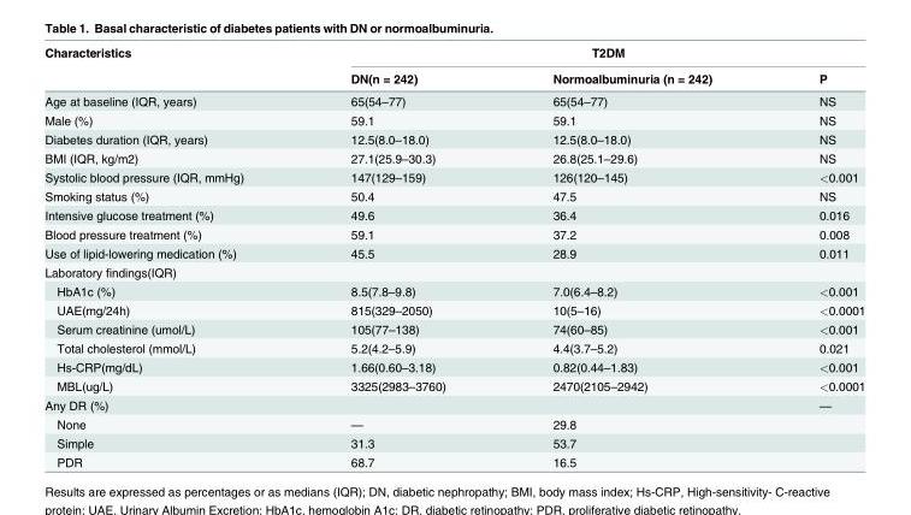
<table><thead><tr><td rowspan="2">Characteristics</td><td colspan="3">T2DM</td></tr><tr><td>DN(n = 242)</td><td>Normoalbuminuria (n = 242)</td><td>P</td></tr></thead><tbody><tr><td>Age at baseline (IQR, years)</td><td>65(54–77)</td><td>65(54–77)</td><td>NS</td></tr><tr><td>Male (%)</td><td>59.1</td><td>59.1</td><td>NS</td></tr><tr><td>Diabetes duration (IQR, years)</td><td>12.5(8.0–18.0)</td><td>12.5(8.0–18.0)</td><td>NS</td></tr><tr><td>BMI (IQR, kg/m2)</td><td>27.1(25.9–30.3)</td><td>26.8(25.1–29.6)</td><td>NS</td></tr><tr><td>Systolic blood pressure (IQR, mmHg)</td><td>147(129–159)</td><td>126(120–145)</td><td>&lt;0.001</td></tr><tr><td>Smoking status (%)</td><td>50.4</td><td>47.5</td><td>NS</td></tr><tr><td>Intensive glucose treatment (%)</td><td>49.6</td><td>36.4</td><td>0.016</td></tr><tr><td>Blood pressure treatment (%)</td><td>59.1</td><td>37.2</td><td>0.008</td></tr><tr><td>Use of lipid-lowering medication (%)</td><td>45.5</td><td>28.9</td><td>0.011</td></tr><tr><td colspan="4">Laboratory findings(IQR)</td></tr><tr><td>HbA1c (%)</td><td>8.5(7.8–9.8)</td><td>7.0(6.4–8.2)</td><td>&lt;0.001</td></tr><tr><td>UAE(mg/24h)</td><td>815(329–2050)</td><td>10(5–16)</td><td>&lt;0.0001</td></tr><tr><td>Serum creatinine (umol/L)</td><td>105(77–138)</td><td>74(60–85)</td><td>&lt;0.001</td></tr><tr><td>Total cholesterol (mmol/L)</td><td>5.2(4.2–5.9)</td><td>4.4(3.7–5.2)</td><td>0.021</td></tr><tr><td>Hs-CRP(mg/dL)</td><td>1.66(0.60–3.18)</td><td>0.82(0.44–1.83)</td><td>&lt;0.001</td></tr><tr><td>MBL(ug/L)</td><td>3325(2983–3760)</td><td>2470(2105–2942)</td><td>&lt;0.0001</td></tr><tr><td>Any DR (%)</td><td></td><td></td><td>—</td></tr><tr><td>None</td><td>—</td><td>29.8</td><td></td></tr><tr><td>Simple</td><td>31.3</td><td>53.7</td><td></td></tr><tr><td>PDR</td><td>68.7</td><td>16.5</td><td></td></tr></tbody></table>